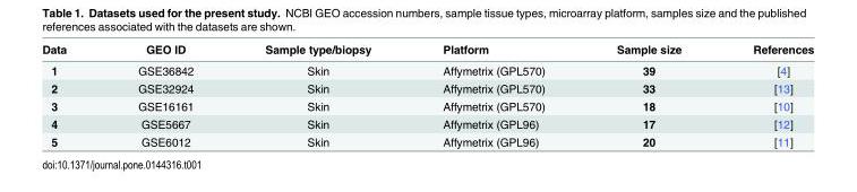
<table><thead><tr><td>Data</td><td>GEO ID</td><td>Sample type/biopsy</td><td>Platform</td><td>Sample size</td><td>References</td></tr></thead><tbody><tr><td>1</td><td>GSE36842</td><td>Skin</td><td>Affymetrix (GPL570)</td><td>39</td><td>[4]</td></tr><tr><td>2</td><td>GSE32924</td><td>Skin</td><td>Affymetrix (GPL570)</td><td>33</td><td>[13]</td></tr><tr><td>3</td><td>GSE16161</td><td>Skin</td><td>Affymetrix (GPL570)</td><td>18</td><td>[10]</td></tr><tr><td>4</td><td>GSE5667</td><td>Skin</td><td>Affymetrix (GPL96)</td><td>17</td><td>[12]</td></tr><tr><td>5</td><td>GSE6012</td><td>Skin</td><td>Affymetrix (GPL96)</td><td>20</td><td>[11]</td></tr></tbody></table>